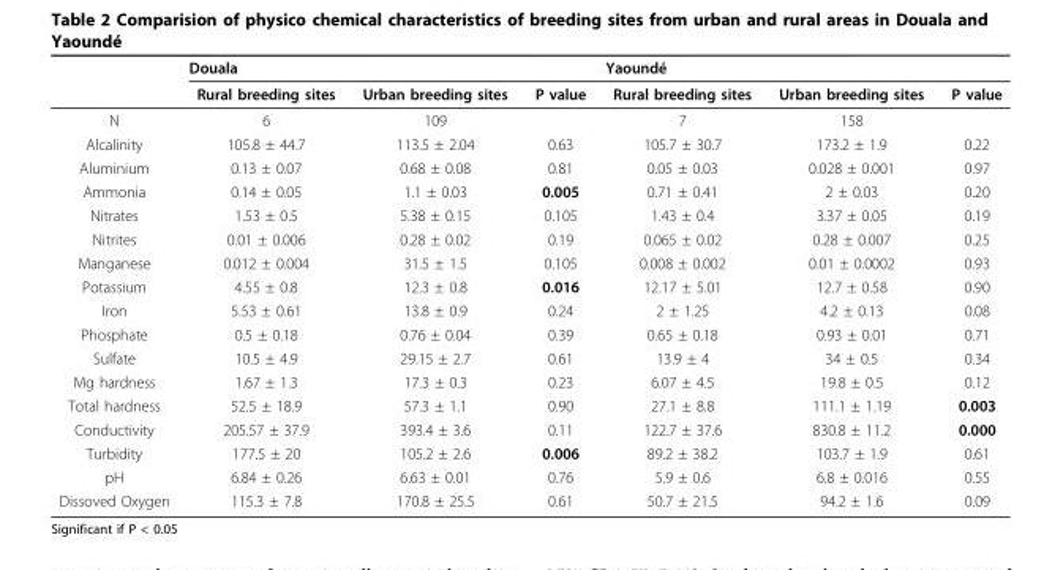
<table><thead><tr><td rowspan="2"></td><td colspan="3">Douala</td><td colspan="3">Yaoundé</td></tr><tr><td>Rural breeding sites</td><td>Urban breeding sites</td><td>P value</td><td>Rural breeding sites</td><td>Urban breeding sites</td><td>P value</td></tr></thead><tbody><tr><td>N</td><td>6</td><td>109</td><td></td><td>7</td><td>158</td><td></td></tr><tr><td>Alcalinity</td><td>105.8 ± 44.7</td><td>113.5 ± 2.04</td><td>0.63</td><td>105.7 ± 30.7</td><td>173.2 ± 1.9</td><td>0.22</td></tr><tr><td>Aluminium</td><td>0.13 ± 0.07</td><td>0.68 ± 0.08</td><td>0.81</td><td>0.05 ± 0.03</td><td>0.028 ± 0.001</td><td>0.97</td></tr><tr><td>Ammonia</td><td>0.14 ± 0.05</td><td>1.1 ± 0.03</td><td>0.005</td><td>0.71 ± 0.41</td><td>2 ± 0.03</td><td>0.20</td></tr><tr><td>Nitrates</td><td>1.53 ± 0.5</td><td>5.38 ± 0.15</td><td>0.105</td><td>1.43 ± 0.4</td><td>3.37 ± 0.05</td><td>0.19</td></tr><tr><td>Nitrites</td><td>0.01 ± 0.006</td><td>0.28 ± 0.02</td><td>0.19</td><td>0.065 ± 0.02</td><td>0.28 ± 0.007</td><td>0.25</td></tr><tr><td>Manganese</td><td>0.012 ± 0.004</td><td>31.5 ± 1.5</td><td>0.105</td><td>0.008 ± 0.002</td><td>0.01 ± 0.0002</td><td>0.93</td></tr><tr><td>Potassium</td><td>4.55 ± 0.8</td><td>12.3 ± 0.8</td><td>0.016</td><td>12.17 ± 5.01</td><td>12.7 ± 0.58</td><td>0.90</td></tr><tr><td>Iron</td><td>5.53 ± 0.61</td><td>13.8 ± 0.9</td><td>0.24</td><td>2 ± 1.25</td><td>4.2 ± 0.13</td><td>0.08</td></tr><tr><td>Phosphate</td><td>0.5 ± 0.18</td><td>0.76 ± 0.04</td><td>0.39</td><td>0.65 ± 0.18</td><td>0.93 ± 0.01</td><td>0.71</td></tr><tr><td>Sulfate</td><td>10.5 ± 4.9</td><td>29.15 ± 2.7</td><td>0.61</td><td>13.9 ± 4</td><td>34 ± 0.5</td><td>0.34</td></tr><tr><td>Mg hardness</td><td>1.67 ± 1.3</td><td>17.3 ± 0.3</td><td>0.23</td><td>6.07 ± 4.5</td><td>19.8 ± 0.5</td><td>0.12</td></tr><tr><td>Total hardness</td><td>52.5 ± 18.9</td><td>57.3 ± 1.1</td><td>0.90</td><td>27.1 ± 8.8</td><td>111.1 ± 1.19</td><td>0.003</td></tr><tr><td>Conductivity</td><td>205.57 ± 37.9</td><td>393.4 ± 3.6</td><td>0.11</td><td>122.7 ± 37.6</td><td>830.8 ± 11.2</td><td>0.000</td></tr><tr><td>Turbidity</td><td>177.5 ± 20</td><td>105.2 ± 2.6</td><td>0.006</td><td>89.2 ± 38.2</td><td>103.7 ± 1.9</td><td>0.61</td></tr><tr><td>pH</td><td>6.84 ± 0.26</td><td>6.63 ± 0.01</td><td>0.76</td><td>5.9 ± 0.6</td><td>6.8 ± 0.016</td><td>0.55</td></tr><tr><td>Dissoved Oxygen</td><td>115.3 ± 7.8</td><td>170.8 ± 25.5</td><td>0.61</td><td>50.7 ± 21.5</td><td>94.2 ± 1.6</td><td>0.09</td></tr></tbody></table>